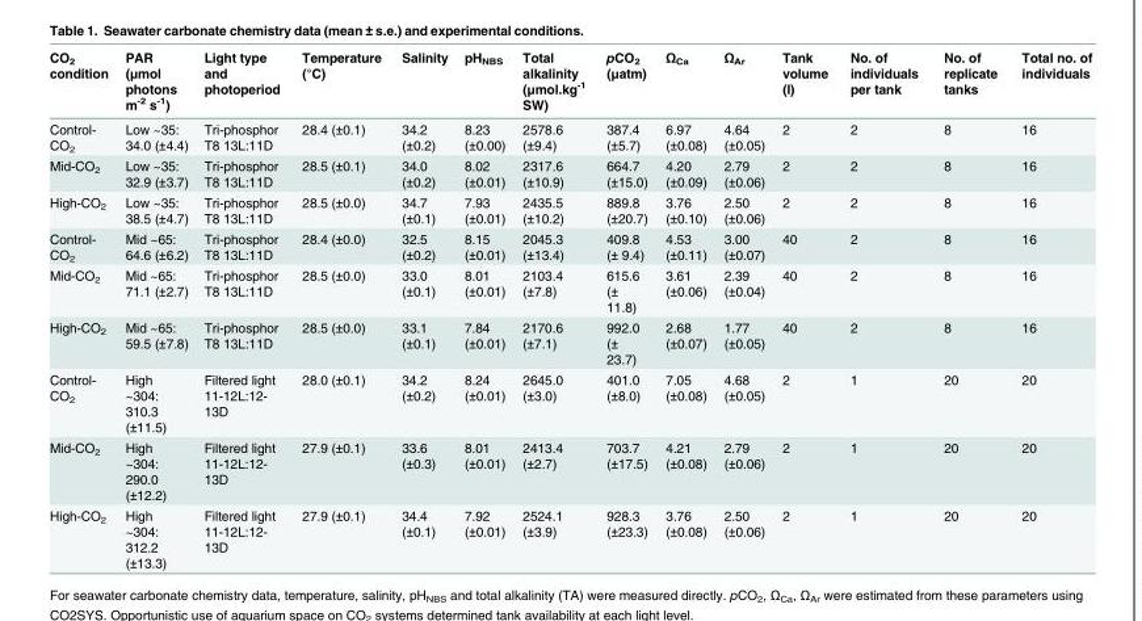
<table><thead><tr><td>CO<sub>2</sub> condition</td><td>PAR (μmol photons m<sup>-2</sup> s<sup>-1</sup>)</td><td>Light type and photoperiod</td><td>Temperature (°C)</td><td>Salinity</td><td>pH<sub>NBS</sub></td><td>Total alkalinity (μmol.kg<sup>-1</sup> SW)</td><td>pCO<sub>2</sub> (μatm)</td><td>Ω<sub>Ca</sub></td><td>Ω<sub>Ar</sub></td><td>Tank volume (l)</td><td>No. of individuals per tank</td><td>No. of replicate tanks</td><td>Total no. of individuals</td></tr></thead><tbody><tr><td>Control- CO<sub>2</sub></td><td>Low ~35: 34.0 (±4.4)</td><td>Tri-phosphor T8 13L:11D</td><td>28.4 (±0.1)</td><td>34.2 (±0.2)</td><td>8.23 (±0.00)</td><td>2578.6 (±9.4)</td><td>387.4 (±5.7)</td><td>6.97 (±0.08)</td><td>4.64 (±0.05)</td><td>2</td><td>2</td><td>8</td><td>16</td></tr><tr><td>Mid-CO<sub>2</sub></td><td>Low ~35: 32.9 (±3.7)</td><td>Tri-phosphor T8 13L:11D</td><td>28.5 (±0.1)</td><td>34.0 (±0.2)</td><td>8.02 (±0.01)</td><td>2317.6 (±10.9)</td><td>664.7 (±15.0)</td><td>4.20 (±0.09)</td><td>2.79 (±0.06)</td><td>2</td><td>2</td><td>8</td><td>16</td></tr><tr><td>High-CO<sub>2</sub></td><td>Low ~35: 38.5 (±4.7)</td><td>Tri-phosphor T8 13L:11D</td><td>28.5 (±0.0)</td><td>34.7 (±0.1)</td><td>7.93 (±0.01)</td><td>2435.5 (±10.2)</td><td>889.8 (±20.7)</td><td>3.76 (±0.10)</td><td>2.50 (±0.06)</td><td>2</td><td>2</td><td>8</td><td>16</td></tr><tr><td>Control- CO<sub>2</sub></td><td>Mid ~65: 64.6 (±6.2)</td><td>Tri-phosphor T8 13L:11D</td><td>28.4 (±0.0)</td><td>32.5 (±0.2)</td><td>8.15 (±0.01)</td><td>2045.3 (±13.4)</td><td>409.8 (± 9.4)</td><td>4.53 (±0.11)</td><td>3.00 (±0.07)</td><td>40</td><td>2</td><td>8</td><td>16</td></tr><tr><td>Mid-CO<sub>2</sub></td><td>Mid ~65: 71.1 (±2.7)</td><td>Tri-phosphor T8 13L:11D</td><td>28.5 (±0.0)</td><td>33.0 (±0.1)</td><td>8.01 (±0.01)</td><td>2103.4 (±7.8)</td><td>615.6 (± 11.8)</td><td>3.61 (±0.06)</td><td>2.39 (±0.04)</td><td>40</td><td>2</td><td>8</td><td>16</td></tr><tr><td>High-CO<sub>2</sub></td><td>Mid ~65: 59.5 (±7.8)</td><td>Tri-phosphor T8 13L:11D</td><td>28.5 (±0.0)</td><td>33.1 (±0.1)</td><td>7.84 (±0.01)</td><td>2170.6 (±7.1)</td><td>992.0 (± 23.7)</td><td>2.68 (±0.07)</td><td>1.77 (±0.05)</td><td>40</td><td>2</td><td>8</td><td>16</td></tr><tr><td>Control- CO<sub>2</sub></td><td>High ~304: 310.3 (±11.5)</td><td>Filtered light 11-12L:12- 13D</td><td>28.0 (±0.1)</td><td>34.2 (±0.2)</td><td>8.24 (±0.01)</td><td>2645.0 (±3.0)</td><td>401.0 (±8.0)</td><td>7.05 (±0.08)</td><td>4.68 (±0.05)</td><td>2</td><td>1</td><td>20</td><td>20</td></tr><tr><td>Mid-CO<sub>2</sub></td><td>High ~304: 290.0 (±12.2)</td><td>Filtered light 11-12L:12- 13D</td><td>27.9 (±0.1)</td><td>33.6 (±0.3)</td><td>8.01 (±0.01)</td><td>2413.4 (±2.7)</td><td>703.7 (±17.5)</td><td>4.21 (±0.08)</td><td>2.79 (±0.06)</td><td>2</td><td>1</td><td>20</td><td>20</td></tr><tr><td>High-CO<sub>2</sub></td><td>High ~304: 312.2 (±13.3)</td><td>Filtered light 11-12L:12- 13D</td><td>27.9 (±0.1)</td><td>34.4 (±0.1)</td><td>7.92 (±0.01)</td><td>2524.1 (±3.9)</td><td>928.3 (±23.3)</td><td>3.76 (±0.08)</td><td>2.50 (±0.06)</td><td>2</td><td>1</td><td>20</td><td>20</td></tr></tbody></table>